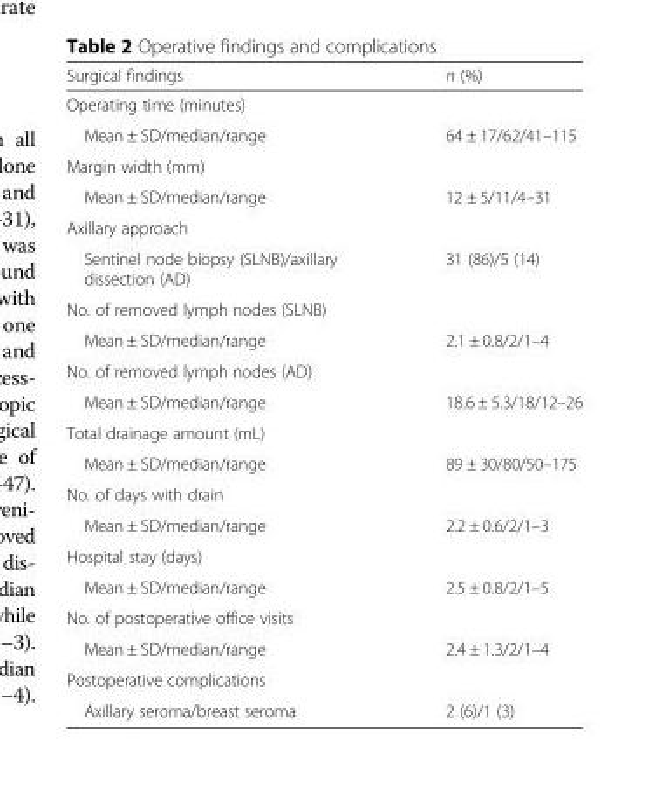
<table><thead><tr><td>Surgical findings</td><td>n (%)</td></tr></thead><tbody><tr><td colspan="2">Operating time (minutes)</td></tr><tr><td>Mean ± SD/median/range</td><td>64 ± 17/62/41–115</td></tr><tr><td colspan="2">Margin width (mm)</td></tr><tr><td>Mean ± SD/median/range</td><td>12 ± 5/11/4–31</td></tr><tr><td colspan="2">Axillary approach</td></tr><tr><td>Sentinel node biopsy (SLNB)/axillary dissection (AD)</td><td>31 (86)/5 (14)</td></tr><tr><td colspan="2">No. of removed lymph nodes (SLNB)</td></tr><tr><td>Mean ± SD/median/range</td><td>2.1 ± 0.8/2/1–4</td></tr><tr><td colspan="2">No. of removed lymph nodes (AD)</td></tr><tr><td>Mean ± SD/median/range</td><td>18.6 ± 5.3/18/12–26</td></tr><tr><td colspan="2">Total drainage amount (mL)</td></tr><tr><td>Mean ± SD/median/range</td><td>89 ± 30/80/50–175</td></tr><tr><td colspan="2">No. of days with drain</td></tr><tr><td>Mean ± SD/median/range</td><td>2.2 ± 0.6/2/1–3</td></tr><tr><td colspan="2">Hospital stay (days)</td></tr><tr><td>Mean ± SD/median/range</td><td>2.5 ± 0.8/2/1–5</td></tr><tr><td colspan="2">No. of postoperative office visits</td></tr><tr><td>Mean ± SD/median/range</td><td>2.4 ± 1.3/2/1–4</td></tr><tr><td colspan="2">Postoperative complications</td></tr><tr><td>Axillary seroma/breast seroma</td><td>2 (6)/1 (3)</td></tr></tbody></table>